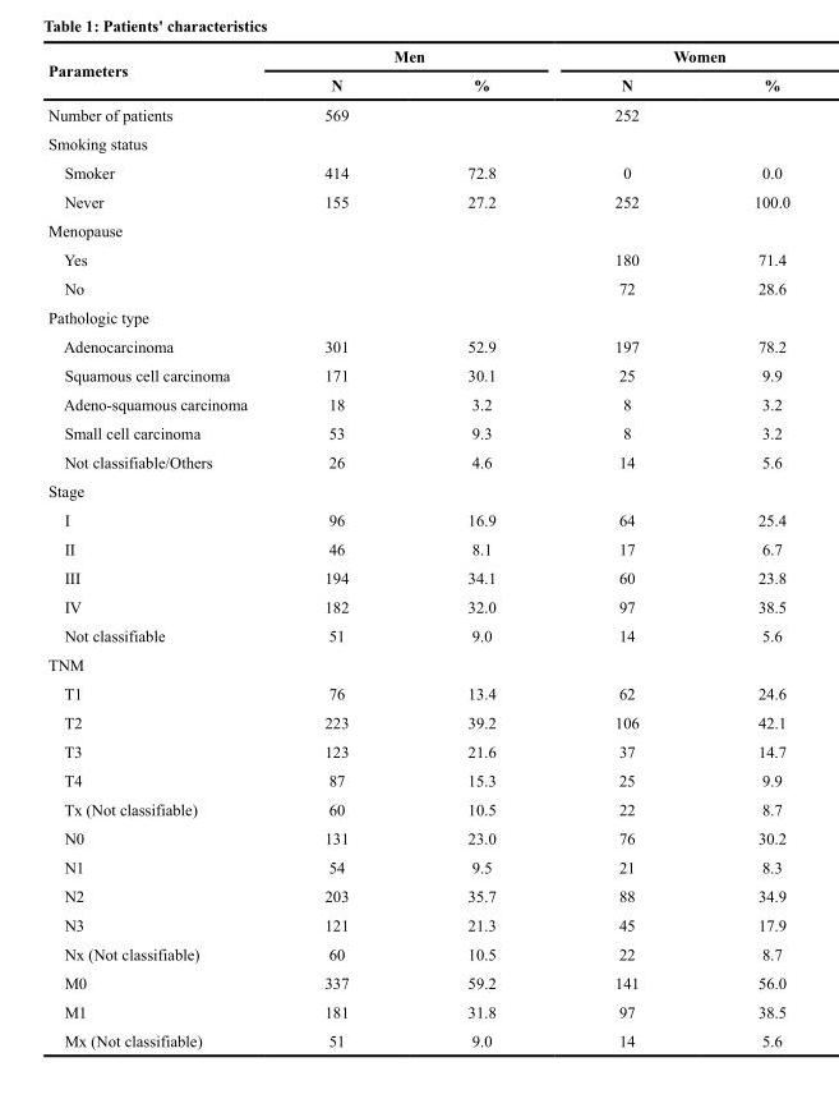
<table><thead><tr><td rowspan="2">Parameters</td><td colspan="2">Men</td><td colspan="2">Women</td></tr><tr><td>N</td><td>%</td><td>N</td><td>%</td></tr></thead><tbody><tr><td>Number of patients</td><td>569</td><td></td><td>252</td><td></td></tr><tr><td colspan="5">Smoking status</td></tr><tr><td>Smoker</td><td>414</td><td>72.8</td><td>0</td><td>0.0</td></tr><tr><td>Never</td><td>155</td><td>27.2</td><td>252</td><td>100.0</td></tr><tr><td colspan="5">Menopause</td></tr><tr><td>Yes</td><td></td><td></td><td>180</td><td>71.4</td></tr><tr><td>No</td><td></td><td></td><td>72</td><td>28.6</td></tr><tr><td colspan="5">Pathologic type</td></tr><tr><td>Adenocarcinoma</td><td>301</td><td>52.9</td><td>197</td><td>78.2</td></tr><tr><td>Squamous cell carcinoma</td><td>171</td><td>30.1</td><td>25</td><td>9.9</td></tr><tr><td>Adeno-squamous carcinoma</td><td>18</td><td>3.2</td><td>8</td><td>3.2</td></tr><tr><td>Small cell carcinoma</td><td>53</td><td>9.3</td><td>8</td><td>3.2</td></tr><tr><td>Not classifiable/Others</td><td>26</td><td>4.6</td><td>14</td><td>5.6</td></tr><tr><td colspan="5">Stage</td></tr><tr><td>I</td><td>96</td><td>16.9</td><td>64</td><td>25.4</td></tr><tr><td>II</td><td>46</td><td>8.1</td><td>17</td><td>6.7</td></tr><tr><td>III</td><td>194</td><td>34.1</td><td>60</td><td>23.8</td></tr><tr><td>IV</td><td>182</td><td>32.0</td><td>97</td><td>38.5</td></tr><tr><td>Not classifiable</td><td>51</td><td>9.0</td><td>14</td><td>5.6</td></tr><tr><td colspan="5">TNM</td></tr><tr><td>T1</td><td>76</td><td>13.4</td><td>62</td><td>24.6</td></tr><tr><td>T2</td><td>223</td><td>39.2</td><td>106</td><td>42.1</td></tr><tr><td>T3</td><td>123</td><td>21.6</td><td>37</td><td>14.7</td></tr><tr><td>T4</td><td>87</td><td>15.3</td><td>25</td><td>9.9</td></tr><tr><td>Tx (Not classifiable)</td><td>60</td><td>10.5</td><td>22</td><td>8.7</td></tr><tr><td>N0</td><td>131</td><td>23.0</td><td>76</td><td>30.2</td></tr><tr><td>N1</td><td>54</td><td>9.5</td><td>21</td><td>8.3</td></tr><tr><td>N2</td><td>203</td><td>35.7</td><td>88</td><td>34.9</td></tr><tr><td>N3</td><td>121</td><td>21.3</td><td>45</td><td>17.9</td></tr><tr><td>Nx (Not classifiable)</td><td>60</td><td>10.5</td><td>22</td><td>8.7</td></tr><tr><td>M0</td><td>337</td><td>59.2</td><td>141</td><td>56.0</td></tr><tr><td>M1</td><td>181</td><td>31.8</td><td>97</td><td>38.5</td></tr><tr><td>Mx (Not classifiable)</td><td>51</td><td>9.0</td><td>14</td><td>5.6</td></tr></tbody></table>